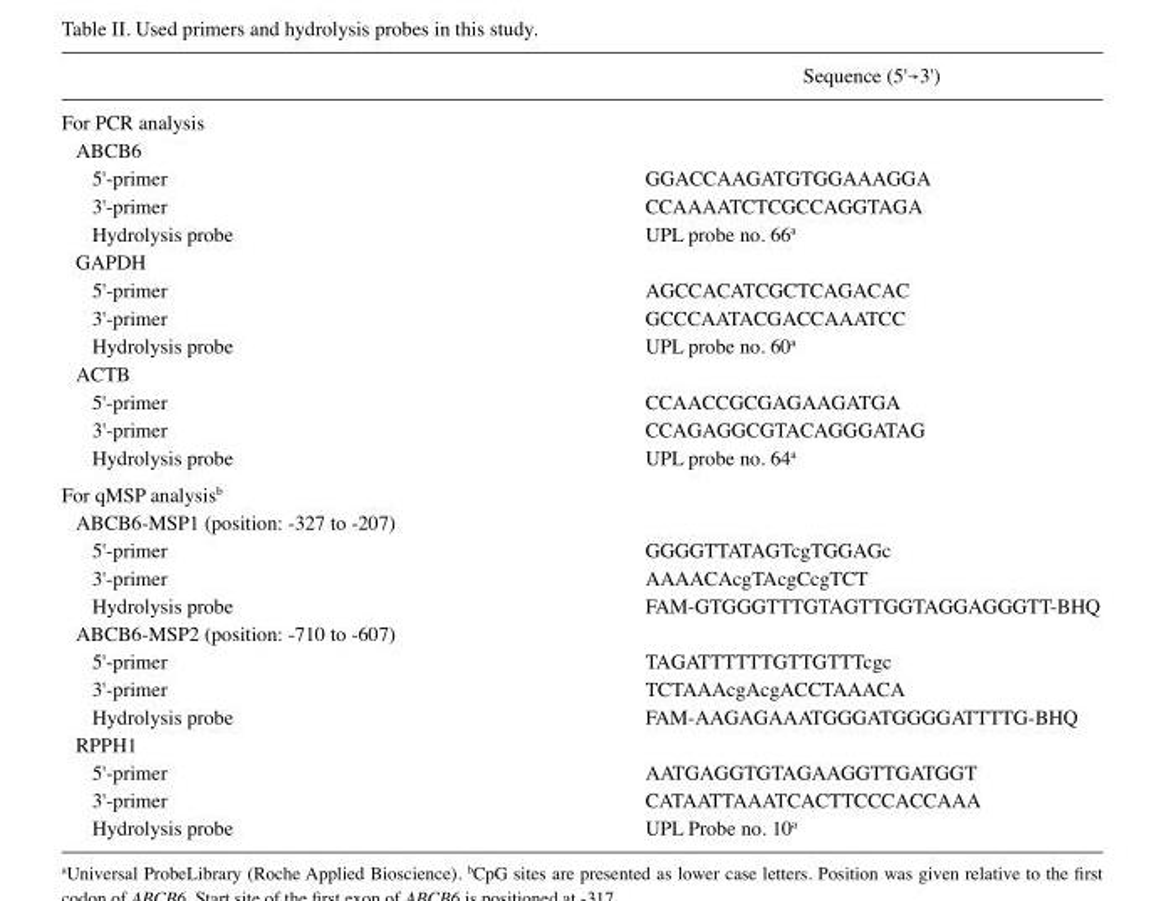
<table><thead><tr><td></td><td>Sequence (5&#x27;→3&#x27;)</td></tr></thead><tbody><tr><td colspan="2">For PCR analysis</td></tr><tr><td colspan="2">ABCB6</td></tr><tr><td>5&#x27;-primer</td><td>GGACCAAGATGTGGAAAGGA</td></tr><tr><td>3&#x27;-primer</td><td>CCAAAATCTCGCCAGGTAGA</td></tr><tr><td>Hydrolysis probe</td><td>UPL probe no. 66<sup>a</sup></td></tr><tr><td colspan="2">GAPDH</td></tr><tr><td>5&#x27;-primer</td><td>AGCCACATCGCTCAGACAC</td></tr><tr><td>3&#x27;-primer</td><td>GCCCAATACGACCAAATCC</td></tr><tr><td>Hydrolysis probe</td><td>UPL probe no. 60<sup>a</sup></td></tr><tr><td colspan="2">ACTB</td></tr><tr><td>5&#x27;-primer</td><td>CCAACCGCGAGAAGATGA</td></tr><tr><td>3&#x27;-primer</td><td>CCAGAGGCGTACAGGGATAG</td></tr><tr><td>Hydrolysis probe</td><td>UPL probe no. 64<sup>a</sup></td></tr><tr><td colspan="2">For qMSP analysis<sup>b</sup></td></tr><tr><td colspan="2">ABCB6-MSP1 (position: -327 to -207)</td></tr><tr><td>5&#x27;-primer</td><td>GGGGTTATAGTcgTGGAGc</td></tr><tr><td>3&#x27;-primer</td><td>AAAACAcgTAcgCcgTCT</td></tr><tr><td>Hydrolysis probe</td><td>FAM-GTGGGTTTGTAGTTGGTAGGAGGGTT-BHQ</td></tr><tr><td colspan="2">ABCB6-MSP2 (position: -710 to -607)</td></tr><tr><td>5&#x27;-primer</td><td>TAGATTTTTTGTTGTTTcgc</td></tr><tr><td>3&#x27;-primer</td><td>TCTAAAcgAcgACCTAAACA</td></tr><tr><td>Hydrolysis probe</td><td>FAM-AAGAGAAATGGGATGGGGATTTTG-BHQ</td></tr><tr><td colspan="2">RPPH1</td></tr><tr><td>5&#x27;-primer</td><td>AATGAGGTGTAGAAGGTTGATGGT</td></tr><tr><td>3&#x27;-primer</td><td>CATAATTAAATCACTTCCCACCAAA</td></tr><tr><td>Hydrolysis probe</td><td>UPL Probe no. 10<sup>a</sup></td></tr></tbody></table>